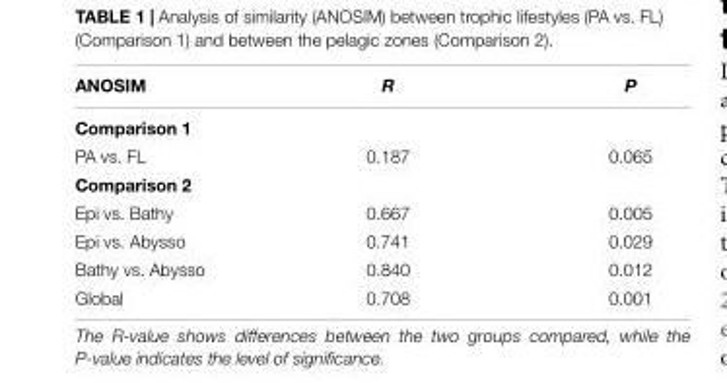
<table><thead><tr><td>ANOSIM</td><td>R</td><td>P</td></tr></thead><tbody><tr><td colspan="3">Comparison 1</td></tr><tr><td>PA vs. FL</td><td>0.187</td><td>0.065</td></tr><tr><td colspan="3">Comparison 2</td></tr><tr><td>Epi vs. Bathy</td><td>0.667</td><td>0.005</td></tr><tr><td>Epi vs. Abysso</td><td>0.741</td><td>0.029</td></tr><tr><td>Bathy vs. Abysso</td><td>0.840</td><td>0.012</td></tr><tr><td>Global</td><td>0.708</td><td>0.001</td></tr></tbody></table>